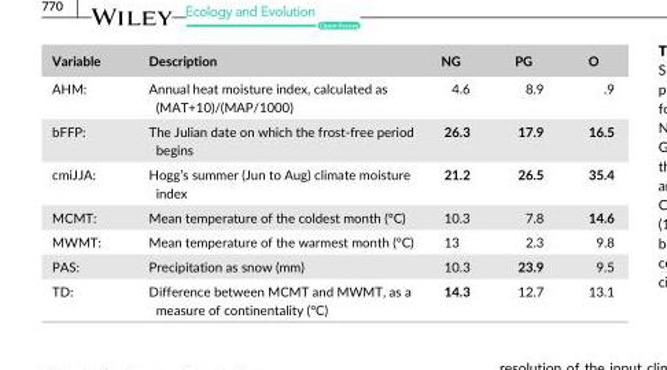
<table><thead><tr><td>Variable</td><td>Description</td><td>NG</td><td>PG</td><td>O</td></tr></thead><tbody><tr><td>AHM:</td><td>Annual heat moisture index, calculated as (MAT+10)/(MAP/1000)</td><td>4.6</td><td>8.9</td><td>.9</td></tr><tr><td>bFFP:</td><td>The Julian date on which the frost- free period begins</td><td>26.3</td><td>17.9</td><td>16.5</td></tr><tr><td>cmiJJA:</td><td>Hogg’s summer (Jun to Aug) climate moisture index</td><td>21.2</td><td>26.5</td><td>35.4</td></tr><tr><td>MCMT:</td><td>Mean temperature of the coldest month (°C)</td><td>10.3</td><td>7.8</td><td>14.6</td></tr><tr><td>MWMT:</td><td>Mean temperature of the warmest month (°C)</td><td>13</td><td>2.3</td><td>9.8</td></tr><tr><td>PAS:</td><td>Precipitation as snow (mm)</td><td>10.3</td><td>23.9</td><td>9.5</td></tr><tr><td>TD:</td><td>Difference between MCMT and MWMT, as a measure of continentality (°C)</td><td>14.3</td><td>12.7</td><td>13.1</td></tr></tbody></table>